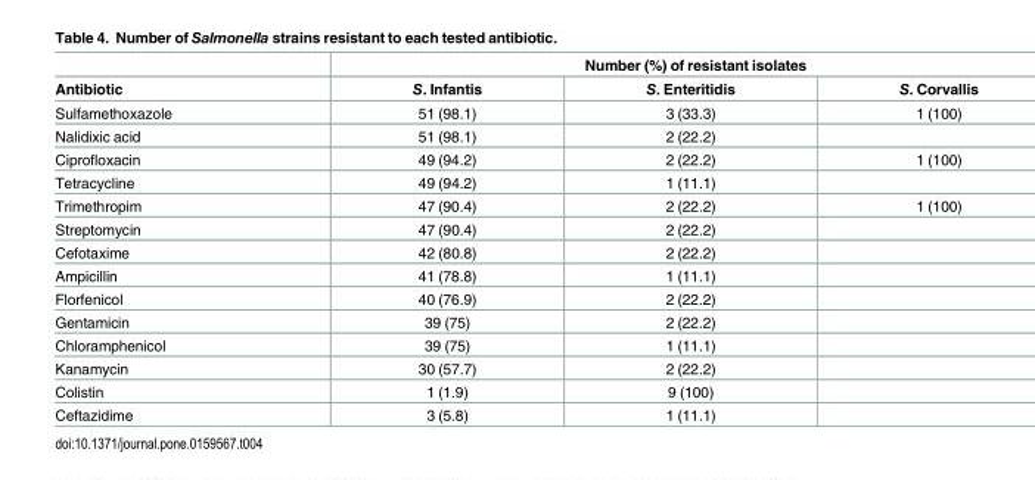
<table><thead><tr><td rowspan="2">Antibiotic</td><td colspan="3">Number (%) of resistant isolates</td></tr><tr><td>S. Infantis</td><td>S. Enteritidis</td><td>S. Corvallis</td></tr></thead><tbody><tr><td>Sulfamethoxazole</td><td>51 (98.1)</td><td>3 (33.3)</td><td>1 (100)</td></tr><tr><td>Nalidixic acid</td><td>51 (98.1)</td><td>2 (22.2)</td><td></td></tr><tr><td>Ciprofloxacin</td><td>49 (94.2)</td><td>2 (22.2)</td><td>1 (100)</td></tr><tr><td>Tetracycline</td><td>49 (94.2)</td><td>1 (11.1)</td><td></td></tr><tr><td>Trimethropim</td><td>47 (90.4)</td><td>2 (22.2)</td><td>1 (100)</td></tr><tr><td>Streptomycin</td><td>47 (90.4)</td><td>2 (22.2)</td><td></td></tr><tr><td>Cefotaxime</td><td>42 (80.8)</td><td>2 (22.2)</td><td></td></tr><tr><td>Ampicillin</td><td>41 (78.8)</td><td>1 (11.1)</td><td></td></tr><tr><td>Florfenicol</td><td>40 (76.9)</td><td>2 (22.2)</td><td></td></tr><tr><td>Gentamicin</td><td>39 (75)</td><td>2 (22.2)</td><td></td></tr><tr><td>Chloramphenicol</td><td>39 (75)</td><td>1 (11.1)</td><td></td></tr><tr><td>Kanamycin</td><td>30 (57.7)</td><td>2 (22.2)</td><td></td></tr><tr><td>Colistin</td><td>1 (1.9)</td><td>9 (100)</td><td></td></tr><tr><td>Ceftazidime</td><td>3 (5.8)</td><td>1 (11.1)</td><td></td></tr></tbody></table>